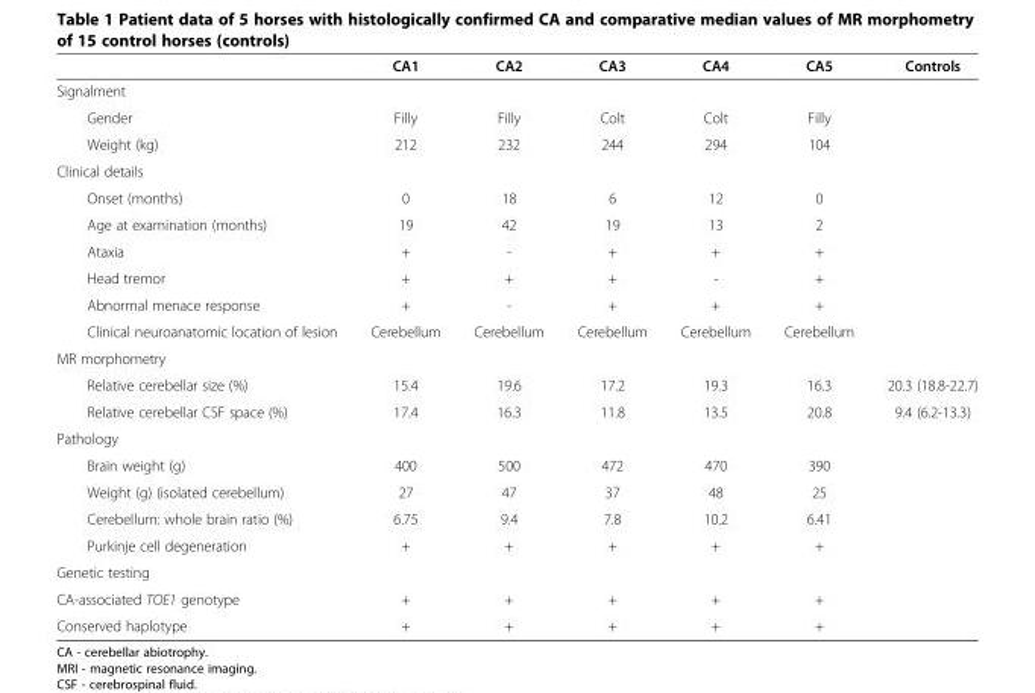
<table><thead><tr><td></td><td>CA1</td><td>CA2</td><td>CA3</td><td>CA4</td><td>CA5</td><td>Controls</td></tr></thead><tbody><tr><td colspan="7">Signalment</td></tr><tr><td>Gender</td><td>Filly</td><td>Filly</td><td>Colt</td><td>Colt</td><td>Filly</td><td></td></tr><tr><td>Weight (kg)</td><td>212</td><td>232</td><td>244</td><td>294</td><td>104</td><td></td></tr><tr><td colspan="7">Clinical details</td></tr><tr><td>Onset (months)</td><td>0</td><td>18</td><td>6</td><td>12</td><td>0</td><td></td></tr><tr><td>Age at examination (months)</td><td>19</td><td>42</td><td>19</td><td>13</td><td>2</td><td></td></tr><tr><td>Ataxia</td><td>+</td><td>-</td><td>+</td><td>+</td><td>+</td><td></td></tr><tr><td>Head tremor</td><td>+</td><td>+</td><td>+</td><td>-</td><td>+</td><td></td></tr><tr><td>Abnormal menace response</td><td>+</td><td>-</td><td>+</td><td>+</td><td>+</td><td></td></tr><tr><td>Clinical neuroanatomic location of lesion</td><td>Cerebellum</td><td>Cerebellum</td><td>Cerebellum</td><td>Cerebellum</td><td>Cerebellum</td><td></td></tr><tr><td colspan="7">MR morphometry</td></tr><tr><td>Relative cerebellar size (%)</td><td>15.4</td><td>19.6</td><td>17.2</td><td>19.3</td><td>16.3</td><td>20.3 (18.8-22.7)</td></tr><tr><td>Relative cerebellar CSF space (%)</td><td>17.4</td><td>16.3</td><td>11.8</td><td>13.5</td><td>20.8</td><td>9.4 (6.2-13.3)</td></tr><tr><td colspan="7">Pathology</td></tr><tr><td>Brain weight (g)</td><td>400</td><td>500</td><td>472</td><td>470</td><td>390</td><td></td></tr><tr><td>Weight (g) (isolated cerebellum)</td><td>27</td><td>47</td><td>37</td><td>48</td><td>25</td><td></td></tr><tr><td>Cerebellum: whole brain ratio (%)</td><td>6.75</td><td>9.4</td><td>7.8</td><td>10.2</td><td>6.41</td><td></td></tr><tr><td>Purkinje cell degeneration</td><td>+</td><td>+</td><td>+</td><td>+</td><td>+</td><td></td></tr><tr><td colspan="7">Genetic testing</td></tr><tr><td>CA-associated TOE1 genotype</td><td>+</td><td>+</td><td>+</td><td>+</td><td>+</td><td></td></tr><tr><td>Conserved haplotype</td><td>+</td><td>+</td><td>+</td><td>+</td><td>+</td><td></td></tr></tbody></table>